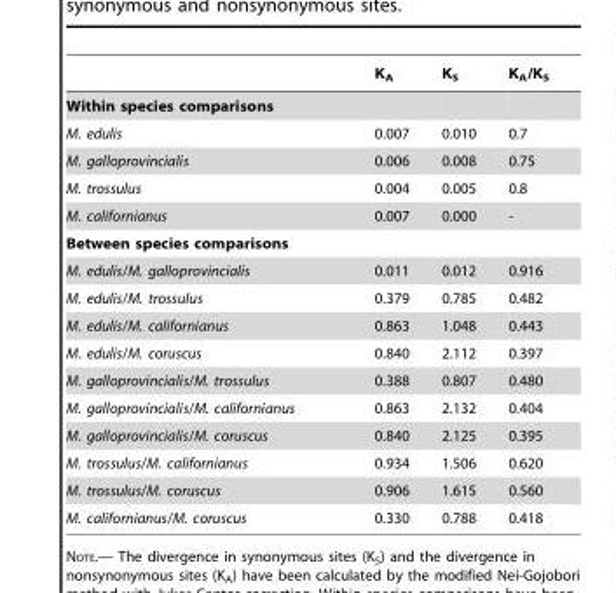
<table><thead><tr><td></td><td>K<sub>A</sub></td><td>K<sub>S</sub></td><td>K<sub>A</sub>/K<sub>S</sub></td></tr></thead><tbody><tr><td colspan="4">Within species comparisons</td></tr><tr><td>M. edulis</td><td>0.007</td><td>0.010</td><td>0.7</td></tr><tr><td>M. galloprovincialis</td><td>0.006</td><td>0.008</td><td>0.75</td></tr><tr><td>M. trossulus</td><td>0.004</td><td>0.005</td><td>0.8</td></tr><tr><td>M. californianus</td><td>0.007</td><td>0.000</td><td>-</td></tr><tr><td colspan="4">Between species comparisons</td></tr><tr><td>M. edulis/M. galloprovincialis</td><td>0.011</td><td>0.012</td><td>0.916</td></tr><tr><td>M. edulis/M. trossulus</td><td>0.379</td><td>0.785</td><td>0.482</td></tr><tr><td>M. edulis/M. californianus</td><td>0.863</td><td>1.048</td><td>0.443</td></tr><tr><td>M. edulis/M. coruscus</td><td>0.840</td><td>2.112</td><td>0.397</td></tr><tr><td>M. galloprovincialis/M. trossulus</td><td>0.388</td><td>0.807</td><td>0.480</td></tr><tr><td>M. galloprovincialis/M. californianus</td><td>0.863</td><td>2.132</td><td>0.404</td></tr><tr><td>M. galloprovincialis/M. coruscus</td><td>0.840</td><td>2.125</td><td>0.395</td></tr><tr><td>M. trossulus/M. californianus</td><td>0.934</td><td>1.506</td><td>0.620</td></tr><tr><td>M. trossulus/M. coruscus</td><td>0.906</td><td>1.615</td><td>0.560</td></tr><tr><td>M. californianus/M. coruscus</td><td>0.330</td><td>0.788</td><td>0.418</td></tr></tbody></table>